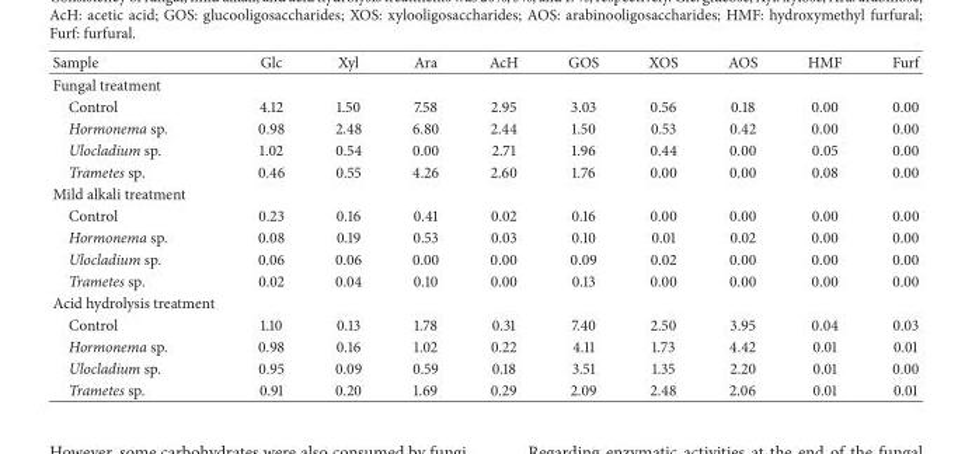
<table><thead><tr><td>Sample</td><td>Glc</td><td>Xyl</td><td>Ara</td><td>AcH</td><td>GOS</td><td>XOS</td><td>AOS</td><td>HMF</td><td>Furf</td></tr></thead><tbody><tr><td colspan="10">Fungal treatment</td></tr><tr><td>Control</td><td>4.12</td><td>1.50</td><td>7.58</td><td>2.95</td><td>3.03</td><td>0.56</td><td>0.18</td><td>0.00</td><td>0.00</td></tr><tr><td>Hormonema sp.</td><td>0.98</td><td>2.48</td><td>6.80</td><td>2.44</td><td>1.50</td><td>0.53</td><td>0.42</td><td>0.00</td><td>0.00</td></tr><tr><td>Ulocladium sp.</td><td>1.02</td><td>0.54</td><td>0.00</td><td>2.71</td><td>1.96</td><td>0.44</td><td>0.00</td><td>0.05</td><td>0.00</td></tr><tr><td>Trametes sp.</td><td>0.46</td><td>0.55</td><td>4.26</td><td>2.60</td><td>1.76</td><td>0.00</td><td>0.00</td><td>0.08</td><td>0.00</td></tr><tr><td colspan="10">Mild alkali treatment</td></tr><tr><td>Control</td><td>0.23</td><td>0.16</td><td>0.41</td><td>0.02</td><td>0.16</td><td>0.00</td><td>0.00</td><td>0.00</td><td>0.00</td></tr><tr><td>Hormonema sp.</td><td>0.08</td><td>0.19</td><td>0.53</td><td>0.03</td><td>0.10</td><td>0.01</td><td>0.02</td><td>0.00</td><td>0.00</td></tr><tr><td>Ulocladium sp.</td><td>0.06</td><td>0.06</td><td>0.00</td><td>0.00</td><td>0.09</td><td>0.02</td><td>0.00</td><td>0.00</td><td>0.00</td></tr><tr><td>Trametes sp.</td><td>0.02</td><td>0.04</td><td>0.10</td><td>0.00</td><td>0.13</td><td>0.00</td><td>0.00</td><td>0.00</td><td>0.00</td></tr><tr><td colspan="10">Acid hydrolysis treatment</td></tr><tr><td>Control</td><td>1.10</td><td>0.13</td><td>1.78</td><td>0.31</td><td>7.40</td><td>2.50</td><td>3.95</td><td>0.04</td><td>0.03</td></tr><tr><td>Hormonema sp.</td><td>0.98</td><td>0.16</td><td>1.02</td><td>0.22</td><td>4.11</td><td>1.73</td><td>4.42</td><td>0.01</td><td>0.01</td></tr><tr><td>Ulocladium sp.</td><td>0.95</td><td>0.09</td><td>0.59</td><td>0.18</td><td>3.51</td><td>1.35</td><td>2.20</td><td>0.01</td><td>0.00</td></tr><tr><td>Trametes sp.</td><td>0.91</td><td>0.20</td><td>1.69</td><td>0.29</td><td>2.09</td><td>2.48</td><td>2.06</td><td>0.01</td><td>0.01</td></tr></tbody></table>